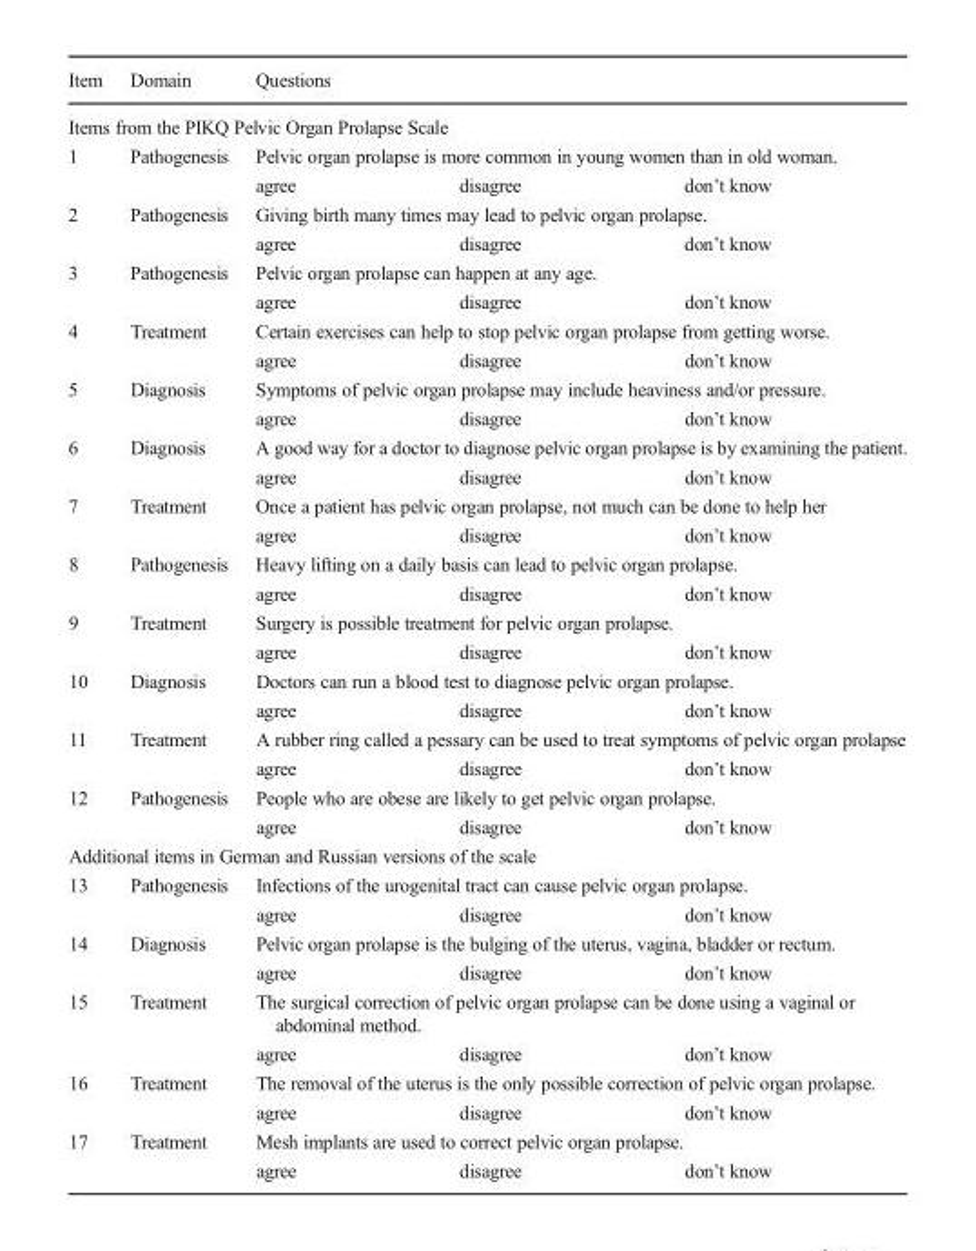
<table><thead><tr><td>Item</td><td>Domain</td><td colspan="3">Questions</td></tr><tr><td colspan="5">Items from the PIKQ Pelvic Organ Prolapse Scale</td></tr><tr><td rowspan="2">1</td><td rowspan="2">Pathogenesis</td><td colspan="3">Pelvic organ prolapse is more common in young women than in old woman.</td></tr><tr><td>agree</td><td>disagree</td><td>don’t know</td></tr></thead><tbody><tr><td rowspan="2">2</td><td rowspan="2">Pathogenesis</td><td colspan="3">Giving birth many times may lead to pelvic organ prolapse.</td></tr><tr><td>agree</td><td>disagree</td><td>don’t know</td></tr><tr><td rowspan="2">3</td><td rowspan="2">Pathogenesis</td><td colspan="3">Pelvic organ prolapse can happen at any age.</td></tr><tr><td>agree</td><td>disagree</td><td>don’t know</td></tr><tr><td rowspan="2">4</td><td rowspan="2">Treatment</td><td colspan="3">Certain exercises can help to stop pelvic organ prolapse from getting worse.</td></tr><tr><td>agree</td><td>disagree</td><td>don’t know</td></tr><tr><td rowspan="2">5</td><td rowspan="2">Diagnosis</td><td colspan="3">Symptoms of pelvic organ prolapse may include heaviness and/or pressure.</td></tr><tr><td>agree</td><td>disagree</td><td>don’t know</td></tr><tr><td rowspan="2">6</td><td rowspan="2">Diagnosis</td><td colspan="3">A good way for a doctor to diagnose pelvic organ prolapse is by examining the patient.</td></tr><tr><td>agree</td><td>disagree</td><td>don’t know</td></tr><tr><td rowspan="2">7</td><td rowspan="2">Treatment</td><td colspan="3">Once a patient has pelvic organ prolapse, not much can be done to help her</td></tr><tr><td>agree</td><td>disagree</td><td>don’t know</td></tr><tr><td rowspan="2">8</td><td rowspan="2">Pathogenesis</td><td colspan="3">Heavy lifting on a daily basis can lead to pelvic organ prolapse.</td></tr><tr><td>agree</td><td>disagree</td><td>don’t know</td></tr><tr><td rowspan="2">9</td><td rowspan="2">Treatment</td><td colspan="3">Surgery is possible treatment for pelvic organ prolapse.</td></tr><tr><td>agree</td><td>disagree</td><td>don’t know</td></tr><tr><td rowspan="2">10</td><td rowspan="2">Diagnosis</td><td colspan="3">Doctors can run a blood test to diagnose pelvic organ prolapse.</td></tr><tr><td>agree</td><td>disagree</td><td>don’t know</td></tr><tr><td rowspan="2">11</td><td rowspan="2">Treatment</td><td colspan="3">A rubber ring called a pessary can be used to treat symptoms of pelvic organ prolapse</td></tr><tr><td>agree</td><td>disagree</td><td>don’t know</td></tr><tr><td rowspan="2">12</td><td rowspan="2">Pathogenesis</td><td colspan="3">People who are obese are likely to get pelvic organ prolapse.</td></tr><tr><td>agree</td><td>disagree</td><td>don’t know</td></tr><tr><td colspan="5">Additional items in German and Russian versions of the scale</td></tr><tr><td rowspan="2">13</td><td rowspan="2">Pathogenesis</td><td colspan="3">Infections of the urogenital tract can cause pelvic organ prolapse.</td></tr><tr><td>agree</td><td>disagree</td><td>don’t know</td></tr><tr><td rowspan="2">14</td><td rowspan="2">Diagnosis</td><td colspan="3">Pelvic organ prolapse is the bulging of the uterus, vagina, bladder or rectum.</td></tr><tr><td>agree</td><td>disagree</td><td>don’t know</td></tr><tr><td rowspan="2">15</td><td rowspan="2">Treatment</td><td colspan="3">The surgical correction of pelvic organ prolapse can be done using a vaginal or abdominal method.</td></tr><tr><td>agree</td><td>disagree</td><td>don’t know</td></tr><tr><td rowspan="2">16</td><td rowspan="2">Treatment</td><td colspan="3">The removal of the uterus is the only possible correction of pelvic organ prolapse.</td></tr><tr><td>agree</td><td>disagree</td><td>don’t know</td></tr><tr><td rowspan="2">17</td><td rowspan="2">Treatment</td><td colspan="3">Mesh implants are used to correct pelvic organ prolapse.</td></tr><tr><td>agree</td><td>disagree</td><td>don’t know</td></tr></tbody></table>